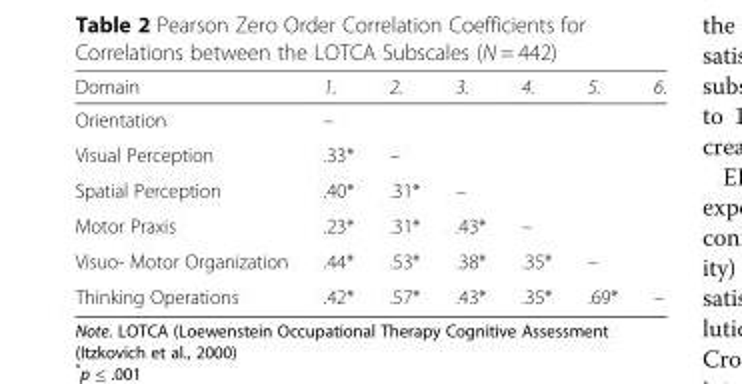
<table><thead><tr><td>Domain</td><td>1.</td><td>2.</td><td>3.</td><td>4.</td><td>5.</td><td>6.</td></tr></thead><tbody><tr><td>Orientation</td><td>–</td><td></td><td></td><td></td><td></td><td></td></tr><tr><td>Visual Perception</td><td>.33*</td><td>–</td><td></td><td></td><td></td><td></td></tr><tr><td>Spatial Perception</td><td>.40*</td><td>.31*</td><td>–</td><td></td><td></td><td></td></tr><tr><td>Motor Praxis</td><td>.23*</td><td>.31*</td><td>.43*</td><td>–</td><td></td><td></td></tr><tr><td>Visuo- Motor Organization</td><td>.44*</td><td>.53*</td><td>.38*</td><td>.35*</td><td>–</td><td></td></tr><tr><td>Thinking Operations</td><td>.42*</td><td>.57*</td><td>.43*</td><td>.35*</td><td>.69*</td><td>–</td></tr></tbody></table>